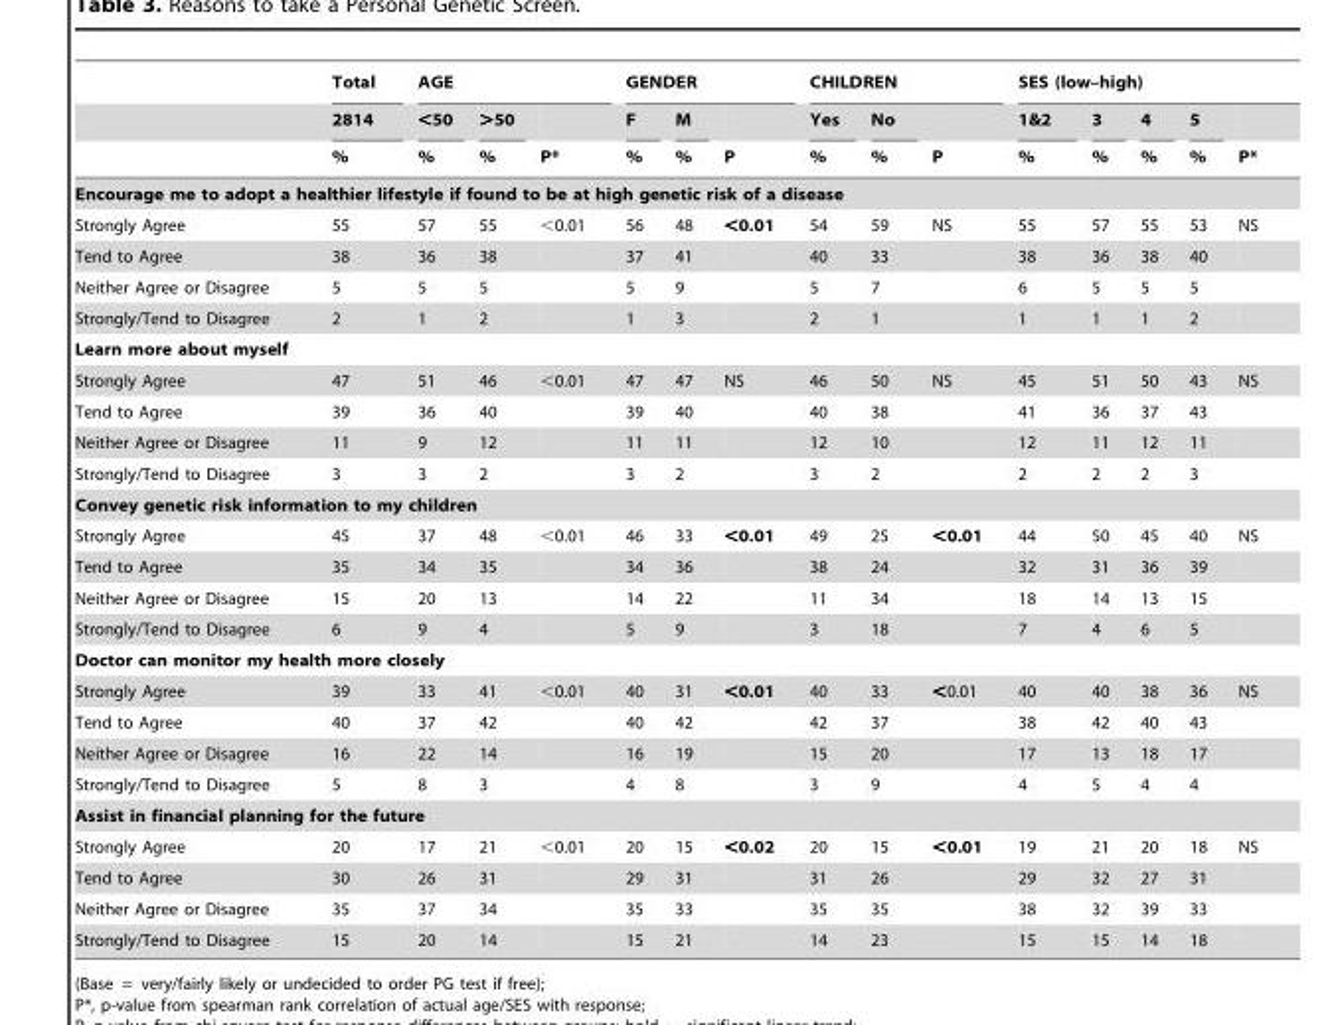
<table><thead><tr><td rowspan="3"></td><td rowspan="3">Total 2814 %</td><td colspan="3">AGE</td><td colspan="3">GENDER</td><td colspan="3">CHILDREN</td><td colspan="5">SES (low–high)</td></tr><tr><td rowspan="2">&lt;50 %</td><td rowspan="2">&gt;50 %</td><td rowspan="2">P*</td><td rowspan="2">F %</td><td rowspan="2">M %</td><td rowspan="2">P</td><td rowspan="2">Yes %</td><td rowspan="2">No %</td><td rowspan="2">P</td><td rowspan="2">1&amp;2 %</td><td rowspan="2">3 %</td><td rowspan="2">4 %</td><td rowspan="2">5 %</td><td rowspan="2">P*</td></tr><tr></tr></thead><tbody><tr><td colspan="16">Encourage me to adopt a healthier lifestyle if found to be at high genetic risk of a disease</td></tr><tr><td>Strongly Agree</td><td>55</td><td>57</td><td>55</td><td>&lt;0.01</td><td>56</td><td>48</td><td>&lt;0.01</td><td>54</td><td>59</td><td>NS</td><td>55</td><td>57</td><td>55</td><td>53</td><td>NS</td></tr><tr><td>Tend to Agree</td><td>38</td><td>36</td><td>38</td><td></td><td>37</td><td>41</td><td></td><td>40</td><td>33</td><td></td><td>38</td><td>36</td><td>38</td><td>40</td><td></td></tr><tr><td>Neither Agree or Disagree</td><td>5</td><td>5</td><td>5</td><td></td><td>5</td><td>9</td><td></td><td>5</td><td>7</td><td></td><td>6</td><td>5</td><td>5</td><td>5</td><td></td></tr><tr><td>Strongly/Tend to Disagree</td><td>2</td><td>1</td><td>2</td><td></td><td>1</td><td>3</td><td></td><td>2</td><td>1</td><td></td><td>1</td><td>1</td><td>1</td><td>2</td><td></td></tr><tr><td colspan="16">Learn more about myself</td></tr><tr><td>Strongly Agree</td><td>47</td><td>51</td><td>46</td><td>&lt;0.01</td><td>47</td><td>47</td><td>NS</td><td>46</td><td>50</td><td>NS</td><td>45</td><td>51</td><td>50</td><td>43</td><td>NS</td></tr><tr><td>Tend to Agree</td><td>39</td><td>36</td><td>40</td><td></td><td>39</td><td>40</td><td></td><td>40</td><td>38</td><td></td><td>41</td><td>36</td><td>37</td><td>43</td><td></td></tr><tr><td>Neither Agree or Disagree</td><td>11</td><td>9</td><td>12</td><td></td><td>11</td><td>11</td><td></td><td>12</td><td>10</td><td></td><td>12</td><td>11</td><td>12</td><td>11</td><td></td></tr><tr><td>Strongly/Tend to Disagree</td><td>3</td><td>3</td><td>2</td><td></td><td>3</td><td>2</td><td></td><td>3</td><td>2</td><td></td><td>2</td><td>2</td><td>2</td><td>3</td><td></td></tr><tr><td colspan="16">Convey genetic risk information to my children</td></tr><tr><td>Strongly Agree</td><td>45</td><td>37</td><td>48</td><td>&lt;0.01</td><td>46</td><td>33</td><td>&lt;0.01</td><td>49</td><td>25</td><td>&lt;0.01</td><td>44</td><td>50</td><td>45</td><td>40</td><td>NS</td></tr><tr><td>Tend to Agree</td><td>35</td><td>34</td><td>35</td><td></td><td>34</td><td>36</td><td></td><td>38</td><td>24</td><td></td><td>32</td><td>31</td><td>36</td><td>39</td><td></td></tr><tr><td>Neither Agree or Disagree</td><td>15</td><td>20</td><td>13</td><td></td><td>14</td><td>22</td><td></td><td>11</td><td>34</td><td></td><td>18</td><td>14</td><td>13</td><td>15</td><td></td></tr><tr><td>Strongly/Tend to Disagree</td><td>6</td><td>9</td><td>4</td><td></td><td>5</td><td>9</td><td></td><td>3</td><td>18</td><td></td><td>7</td><td>4</td><td>6</td><td>5</td><td></td></tr><tr><td colspan="16">Doctor can monitor my health more closely</td></tr><tr><td>Strongly Agree</td><td>39</td><td>33</td><td>41</td><td>&lt;0.01</td><td>40</td><td>31</td><td>&lt;0.01</td><td>40</td><td>33</td><td>&lt;0.01</td><td>40</td><td>40</td><td>38</td><td>36</td><td>NS</td></tr><tr><td>Tend to Agree</td><td>40</td><td>37</td><td>42</td><td></td><td>40</td><td>42</td><td></td><td>42</td><td>37</td><td></td><td>38</td><td>42</td><td>40</td><td>43</td><td></td></tr><tr><td>Neither Agree or Disagree</td><td>16</td><td>22</td><td>14</td><td></td><td>16</td><td>19</td><td></td><td>15</td><td>20</td><td></td><td>17</td><td>13</td><td>18</td><td>17</td><td></td></tr><tr><td>Strongly/Tend to Disagree</td><td>5</td><td>8</td><td>3</td><td></td><td>4</td><td>8</td><td></td><td>3</td><td>9</td><td></td><td>4</td><td>5</td><td>4</td><td>4</td><td></td></tr><tr><td colspan="16">Assist in financial planning for the future</td></tr><tr><td>Strongly Agree</td><td>20</td><td>17</td><td>21</td><td>&lt;0.01</td><td>20</td><td>15</td><td>&lt;0.02</td><td>20</td><td>15</td><td>&lt;0.01</td><td>19</td><td>21</td><td>20</td><td>18</td><td>NS</td></tr><tr><td>Tend to Agree</td><td>30</td><td>26</td><td>31</td><td></td><td>29</td><td>31</td><td></td><td>31</td><td>26</td><td></td><td>29</td><td>32</td><td>27</td><td>31</td><td></td></tr><tr><td>Neither Agree or Disagree</td><td>35</td><td>37</td><td>34</td><td></td><td>35</td><td>33</td><td></td><td>35</td><td>35</td><td></td><td>38</td><td>32</td><td>39</td><td>33</td><td></td></tr><tr><td>Strongly/Tend to Disagree</td><td>15</td><td>20</td><td>14</td><td></td><td>15</td><td>21</td><td></td><td>14</td><td>23</td><td></td><td>15</td><td>15</td><td>14</td><td>18</td><td></td></tr></tbody></table>